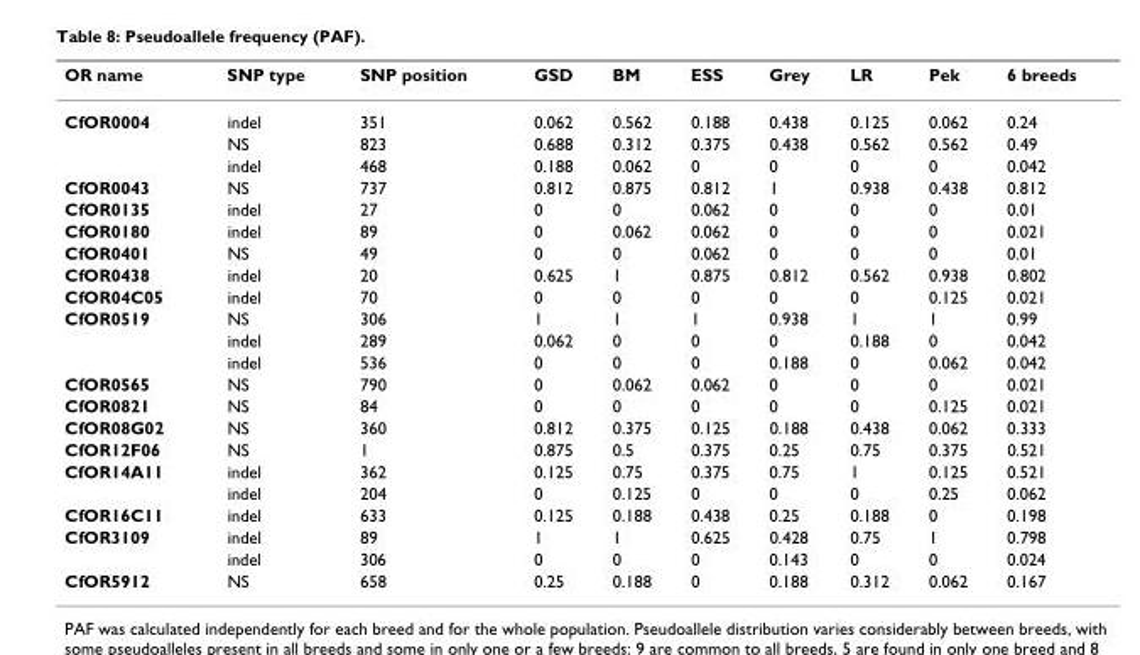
<table><thead><tr><td>OR name</td><td>SNP type</td><td>SNP position</td><td>GSD</td><td>BM</td><td>ESS</td><td>Grey</td><td>LR</td><td>Pek</td><td>6 breeds</td></tr></thead><tbody><tr><td rowspan="3">CfOR0004</td><td>indel</td><td>351</td><td>0.062</td><td>0.562</td><td>0.188</td><td>0.438</td><td>0.125</td><td>0.062</td><td>0.24</td></tr><tr><td>NS</td><td>823</td><td>0.688</td><td>0.312</td><td>0.375</td><td>0.438</td><td>0.562</td><td>0.562</td><td>0.49</td></tr><tr><td>indel</td><td>468</td><td>0.188</td><td>0.062</td><td>0</td><td>0</td><td>0</td><td>0</td><td>0.042</td></tr><tr><td>CfOR0043</td><td>NS</td><td>737</td><td>0.812</td><td>0.875</td><td>0.812</td><td>1</td><td>0.938</td><td>0.438</td><td>0.812</td></tr><tr><td>CfOR0135</td><td>indel</td><td>27</td><td>0</td><td>0</td><td>0.062</td><td>0</td><td>0</td><td>0</td><td>0.01</td></tr><tr><td>CfOR0180</td><td>indel</td><td>89</td><td>0</td><td>0.062</td><td>0.062</td><td>0</td><td>0</td><td>0</td><td>0.021</td></tr><tr><td>CfOR0401</td><td>NS</td><td>49</td><td>0</td><td>0</td><td>0.062</td><td>0</td><td>0</td><td>0</td><td>0.01</td></tr><tr><td>CfOR0438</td><td>indel</td><td>20</td><td>0.625</td><td>1</td><td>0.875</td><td>0.812</td><td>0.562</td><td>0.938</td><td>0.802</td></tr><tr><td>CfOR04C05</td><td>indel</td><td>70</td><td>0</td><td>0</td><td>0</td><td>0</td><td>0</td><td>0.125</td><td>0.021</td></tr><tr><td rowspan="3">CfOR0519</td><td>NS</td><td>306</td><td>1</td><td>1</td><td>1</td><td>0.938</td><td>1</td><td>1</td><td>0.99</td></tr><tr><td>indel</td><td>289</td><td>0.062</td><td>0</td><td>0</td><td>0</td><td>0.188</td><td>0</td><td>0.042</td></tr><tr><td>indel</td><td>536</td><td>0</td><td>0</td><td>0</td><td>0.188</td><td>0</td><td>0.062</td><td>0.042</td></tr><tr><td>CfOR0565</td><td>NS</td><td>790</td><td>0</td><td>0.062</td><td>0.062</td><td>0</td><td>0</td><td>0</td><td>0.021</td></tr><tr><td>CfOR0821</td><td>NS</td><td>84</td><td>0</td><td>0</td><td>0</td><td>0</td><td>0</td><td>0.125</td><td>0.021</td></tr><tr><td>CfOR08G02</td><td>NS</td><td>360</td><td>0.812</td><td>0.375</td><td>0.125</td><td>0.188</td><td>0.438</td><td>0.062</td><td>0.333</td></tr><tr><td>CfOR12F06</td><td>NS</td><td>1</td><td>0.875</td><td>0.5</td><td>0.375</td><td>0.25</td><td>0.75</td><td>0.375</td><td>0.521</td></tr><tr><td rowspan="2">CfOR14A11</td><td>indel</td><td>362</td><td>0.125</td><td>0.75</td><td>0.375</td><td>0.75</td><td>1</td><td>0.125</td><td>0.521</td></tr><tr><td>indel</td><td>204</td><td>0</td><td>0.125</td><td>0</td><td>0</td><td>0</td><td>0.25</td><td>0.062</td></tr><tr><td>CfOR16C11</td><td>indel</td><td>633</td><td>0.125</td><td>0.188</td><td>0.438</td><td>0.25</td><td>0.188</td><td>0</td><td>0.198</td></tr><tr><td rowspan="2">CfOR3109</td><td>indel</td><td>89</td><td>1</td><td>1</td><td>0.625</td><td>0.428</td><td>0.75</td><td>1</td><td>0.798</td></tr><tr><td>indel</td><td>306</td><td>0</td><td>0</td><td>0</td><td>0.143</td><td>0</td><td>0</td><td>0.024</td></tr><tr><td>CfOR5912</td><td>NS</td><td>658</td><td>0.25</td><td>0.188</td><td>0</td><td>0.188</td><td>0.312</td><td>0.062</td><td>0.167</td></tr></tbody></table>